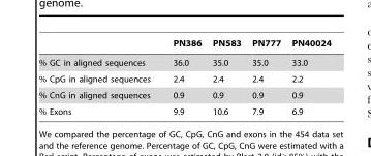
<table><thead><tr><td></td><td>PN386</td><td>PN583</td><td>PN777</td><td>PN40024</td></tr></thead><tbody><tr><td>% GC in aligned sequences</td><td>36.0</td><td>35.0</td><td>35.0</td><td>33.0</td></tr><tr><td>% CpG in aligned sequences</td><td>2.4</td><td>2.4</td><td>2.4</td><td>2.2</td></tr><tr><td>% CnG in aligned sequences</td><td>0.9</td><td>0.9</td><td>0.9</td><td>0.9</td></tr><tr><td>% Exons</td><td>9.9</td><td>10.6</td><td>7.9</td><td>6.9</td></tr></tbody></table>